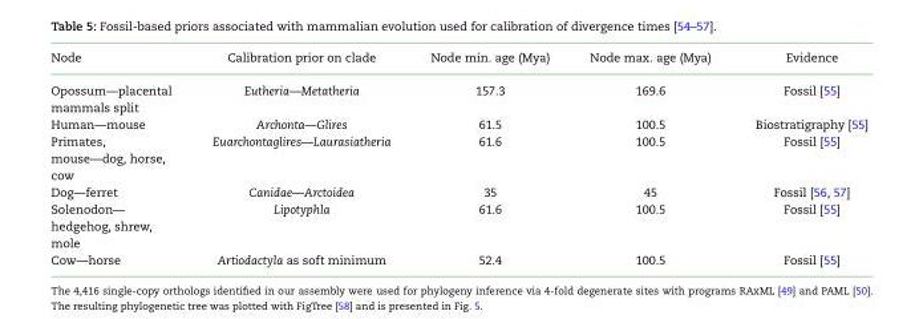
<table><thead><tr><td>Node</td><td>Calibration prior on clade</td><td>Node min. age (Mya)</td><td>Node max. age (Mya)</td><td>Evidence</td></tr></thead><tbody><tr><td>Opossum—placental mammals split</td><td>Eutheria—Metatheria</td><td>157.3</td><td>169.6</td><td>Fossil [55]</td></tr><tr><td>Human—mouse</td><td>Archonta—Glires</td><td>61.5</td><td>100.5</td><td>Biostratigraphy [55]</td></tr><tr><td>Primates, mouse—dog, horse, cow</td><td>Euarchontaglires—Laurasiatheria</td><td>61.6</td><td>100.5</td><td>Fossil [55]</td></tr><tr><td>Dog—ferret</td><td>Canidae—Arctoidea</td><td>35</td><td>45</td><td>Fossil [56, 57]</td></tr><tr><td>Solenodon— hedgehog, shrew, mole</td><td>Lipotyphla</td><td>61.6</td><td>100.5</td><td>Fossil [55]</td></tr><tr><td>Cow—horse</td><td>Artiodactyla as soft minimum</td><td>52.4</td><td>100.5</td><td>Fossil [55]</td></tr></tbody></table>